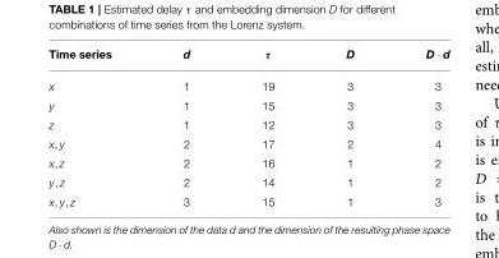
<table><thead><tr><td>Time series</td><td>d</td><td>τ</td><td>D</td><td>D · d</td></tr></thead><tbody><tr><td>x</td><td>1</td><td>19</td><td>3</td><td>3</td></tr><tr><td>y</td><td>1</td><td>15</td><td>3</td><td>3</td></tr><tr><td>z</td><td>1</td><td>12</td><td>3</td><td>3</td></tr><tr><td>x, y</td><td>2</td><td>17</td><td>2</td><td>4</td></tr><tr><td>x, z</td><td>2</td><td>16</td><td>1</td><td>2</td></tr><tr><td>y, z</td><td>2</td><td>14</td><td>1</td><td>2</td></tr><tr><td>x, y, z</td><td>3</td><td>15</td><td>1</td><td>3</td></tr></tbody></table>